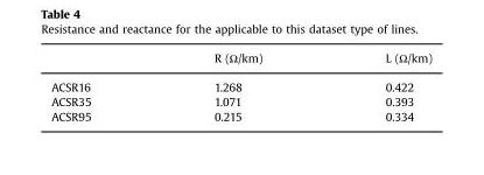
<table><thead><tr><td></td><td>R (Ω/km)</td><td>L (Ω/km)</td></tr></thead><tbody><tr><td>ACSR16</td><td>1.268</td><td>0.422</td></tr><tr><td>ACSR35</td><td>1.071</td><td>0.393</td></tr><tr><td>ACSR95</td><td>0.215</td><td>0.334</td></tr></tbody></table>